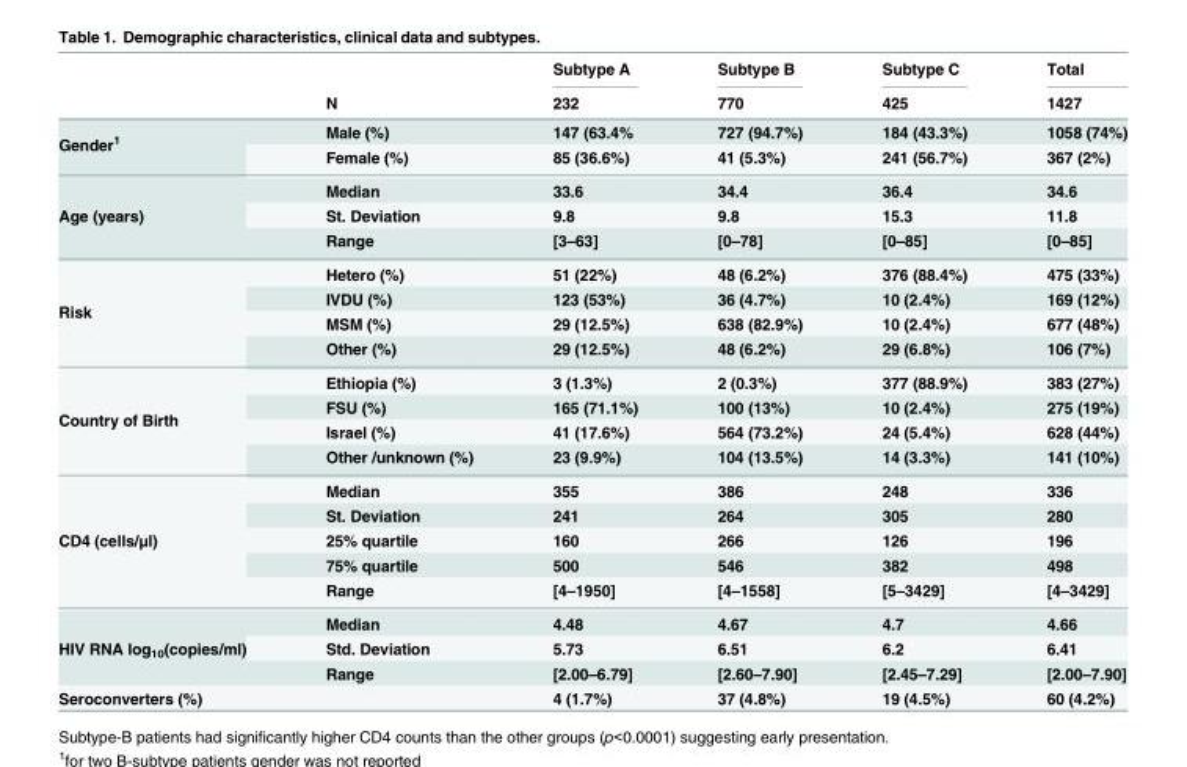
<table><thead><tr><td rowspan="2"></td><td rowspan="2">N</td><td rowspan="2">Subtype A 232</td><td rowspan="2">Subtype B 770</td><td rowspan="2">Subtype C 425</td><td rowspan="2">Total 1427</td></tr><tr></tr></thead><tbody><tr><td rowspan="2">Gender<sup>1</sup></td><td>Male (%)</td><td>147 (63.4%</td><td>727 (94.7%)</td><td>184 (43.3%)</td><td>1058 (74%)</td></tr><tr><td>Female (%)</td><td>85 (36.6%)</td><td>41 (5.3%)</td><td>241 (56.7%)</td><td>367 (2%)</td></tr><tr><td rowspan="3">Age (years)</td><td>Median</td><td>33.6</td><td>34.4</td><td>36.4</td><td>34.6</td></tr><tr><td>St. Deviation</td><td>9.8</td><td>9.8</td><td>15.3</td><td>11.8</td></tr><tr><td>Range</td><td>[3–63]</td><td>[0–78]</td><td>[0–85]</td><td>[0–85]</td></tr><tr><td rowspan="4">Risk</td><td>Hetero (%)</td><td>51 (22%)</td><td>48 (6.2%)</td><td>376 (88.4%)</td><td>475 (33%)</td></tr><tr><td>IVDU (%)</td><td>123 (53%)</td><td>36 (4.7%)</td><td>10 (2.4%)</td><td>169 (12%)</td></tr><tr><td>MSM (%)</td><td>29 (12.5%)</td><td>638 (82.9%)</td><td>10 (2.4%)</td><td>677 (48%)</td></tr><tr><td>Other (%)</td><td>29 (12.5%)</td><td>48 (6.2%)</td><td>29 (6.8%)</td><td>106 (7%)</td></tr><tr><td rowspan="4">Country of Birth</td><td>Ethiopia (%)</td><td>3 (1.3%)</td><td>2 (0.3%)</td><td>377 (88.9%)</td><td>383 (27%)</td></tr><tr><td>FSU (%)</td><td>165 (71.1%)</td><td>100 (13%)</td><td>10 (2.4%)</td><td>275 (19%)</td></tr><tr><td>Israel (%)</td><td>41 (17.6%)</td><td>564 (73.2%)</td><td>24 (5.4%)</td><td>628 (44%)</td></tr><tr><td>Other /unknown (%)</td><td>23 (9.9%)</td><td>104 (13.5%)</td><td>14 (3.3%)</td><td>141 (10%)</td></tr><tr><td rowspan="5">CD4 (cells/μl)</td><td>Median</td><td>355</td><td>386</td><td>248</td><td>336</td></tr><tr><td>St. Deviation</td><td>241</td><td>264</td><td>305</td><td>280</td></tr><tr><td>25% quartile</td><td>160</td><td>266</td><td>126</td><td>196</td></tr><tr><td>75% quartile</td><td>500</td><td>546</td><td>382</td><td>498</td></tr><tr><td>Range</td><td>[4–1950]</td><td>[4–1558]</td><td>[5–3429]</td><td>[4–3429]</td></tr><tr><td rowspan="3">HIV RNA log<sub>10</sub>(copies/ml)</td><td>Median</td><td>4.48</td><td>4.67</td><td>4.7</td><td>4.66</td></tr><tr><td>Std. Deviation</td><td>5.73</td><td>6.51</td><td>6.2</td><td>6.41</td></tr><tr><td>Range</td><td>[2.00–6.79]</td><td>[2.60–7.90]</td><td>[2.45–7.29]</td><td>[2.00–7.90]</td></tr><tr><td>Seroconverters (%)</td><td></td><td>4 (1.7%)</td><td>37 (4.8%)</td><td>19 (4.5%)</td><td>60 (4.2%)</td></tr></tbody></table>